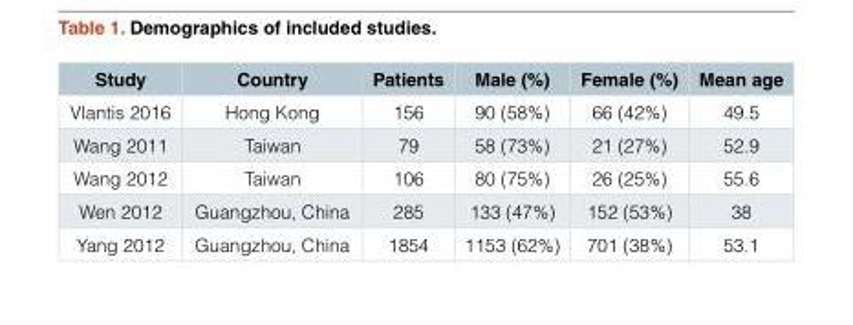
<table><thead><tr><td>Study</td><td>Country</td><td>Patients</td><td>Male (%)</td><td>Female (%)</td><td>Mean age</td></tr></thead><tbody><tr><td>Vlantis 2016</td><td>Hong Kong</td><td>156</td><td>90 (58%)</td><td>66 (42%)</td><td>49.5</td></tr><tr><td>Wang 2011</td><td>Taiwan</td><td>79</td><td>58 (73%)</td><td>21 (27%)</td><td>52.9</td></tr><tr><td>Wang 2012</td><td>Taiwan</td><td>106</td><td>80 (75%)</td><td>26 (25%)</td><td>55.6</td></tr><tr><td>Wen 2012</td><td>Guangzhou, China</td><td>285</td><td>133 (47%)</td><td>152 (53%)</td><td>38</td></tr><tr><td>Yang 2012</td><td>Guangzhou, China</td><td>1854</td><td>1153 (62%)</td><td>701 (38%)</td><td>53.1</td></tr></tbody></table>